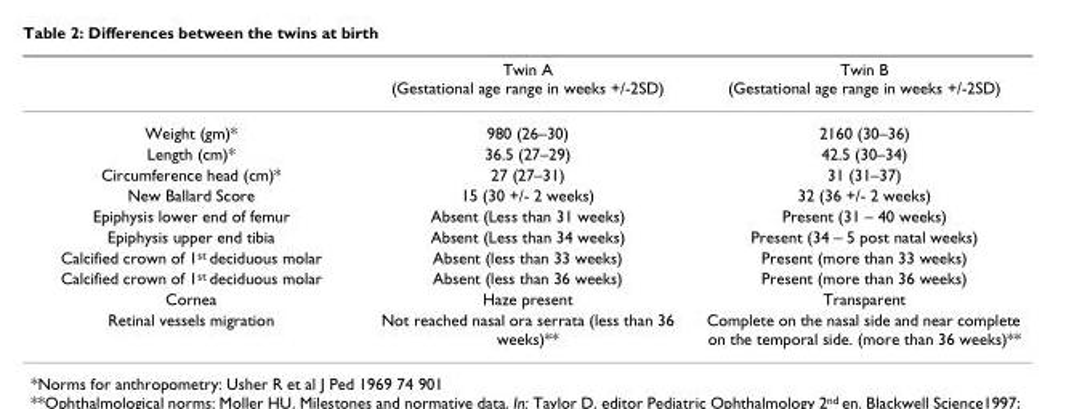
<table><thead><tr><td></td><td>Twin A (Gestational age range in weeks +/-2SD)</td><td>Twin B (Gestational age range in weeks +/-2SD)</td></tr></thead><tbody><tr><td>Weight (gm)*</td><td>980 (26–30)</td><td>2160 (30–36)</td></tr><tr><td>Length (cm)*</td><td>36.5 (27–29)</td><td>42.5 (30–34)</td></tr><tr><td>Circumference head (cm)*</td><td>27 (27–31)</td><td>31 (31–37)</td></tr><tr><td>New Ballard Score</td><td>15 (30 +/- 2 weeks)</td><td>32 (36 +/- 2 weeks)</td></tr><tr><td>Epiphysis lower end of femur</td><td>Absent (Less than 31 weeks)</td><td>Present (31 – 40 weeks)</td></tr><tr><td>Epiphysis upper end tibia</td><td>Absent (Less than 34 weeks)</td><td>Present (34 – 5 post natal weeks)</td></tr><tr><td>Calcified crown of 1st deciduous molar</td><td>Absent (less than 33 weeks)</td><td>Present (more than 33 weeks)</td></tr><tr><td>Calcified crown of 1st deciduous molar</td><td>Absent (less than 36 weeks)</td><td>Present (more than 36 weeks)</td></tr><tr><td>Cornea</td><td>Haze present</td><td>Transparent</td></tr><tr><td>Retinal vessels migration</td><td>Not reached nasal ora serrata (less than 36 weeks)**</td><td>Complete on the nasal side and near complete on the temporal side. (more than 36 weeks)**</td></tr></tbody></table>